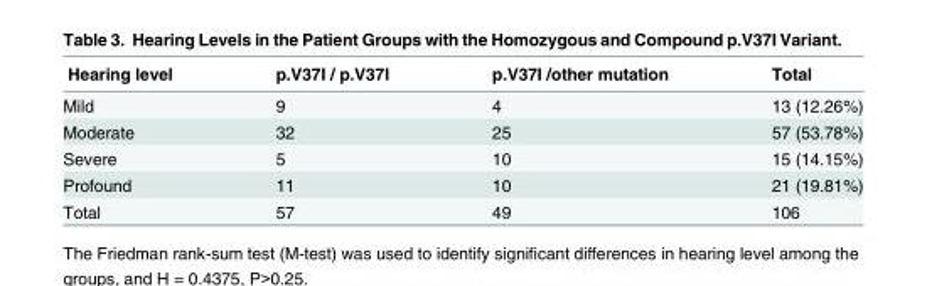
<table><thead><tr><td>Hearing level</td><td>p.V37I / p.V37I</td><td>p.V37I /other mutation</td><td>Total</td></tr></thead><tbody><tr><td>Mild</td><td>9</td><td>4</td><td>13 (12.26%)</td></tr><tr><td>Moderate</td><td>32</td><td>25</td><td>57 (53.78%)</td></tr><tr><td>Severe</td><td>5</td><td>10</td><td>15 (14.15%)</td></tr><tr><td>Profound</td><td>11</td><td>10</td><td>21 (19.81%)</td></tr><tr><td>Total</td><td>57</td><td>49</td><td>106</td></tr></tbody></table>